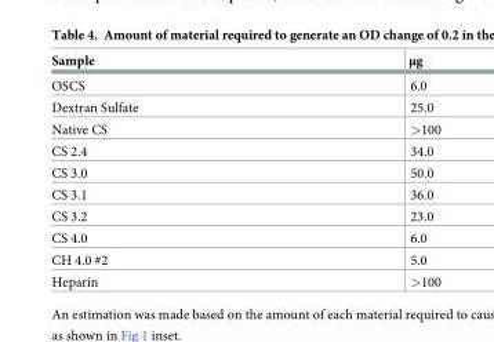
<table><thead><tr><td>Sample</td><td>μg</td></tr></thead><tbody><tr><td>OSCS</td><td>6.0</td></tr><tr><td>Dextran Sulfate</td><td>25.0</td></tr><tr><td>Native CS</td><td>&gt;100</td></tr><tr><td>CS 2.4</td><td>34.0</td></tr><tr><td>CS 3.0</td><td>50.0</td></tr><tr><td>CS 3.1</td><td>36.0</td></tr><tr><td>CS 3.2</td><td>23.0</td></tr><tr><td>CS 4.0</td><td>6.0</td></tr><tr><td>CH 4.0 #2</td><td>5.0</td></tr><tr><td>Heparin</td><td>&gt;100</td></tr></tbody></table>